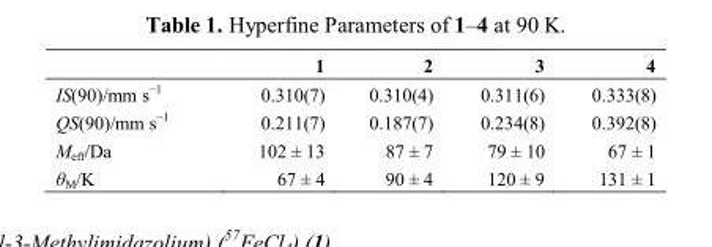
<table><thead><tr><td></td><td>1</td><td>2</td><td>3</td><td>4</td></tr></thead><tbody><tr><td>IS(90)/mm s<sup>−1</sup></td><td>0.310(7)</td><td>0.310(4)</td><td>0.311(6)</td><td>0.333(8)</td></tr><tr><td>QS(90)/mm s<sup>−1</sup></td><td>0.211(7)</td><td>0.187(7)</td><td>0.234(8)</td><td>0.392(8)</td></tr><tr><td>M<sub>eff</sub>/Da</td><td>102 ± 13</td><td>87 ± 7</td><td>79 ± 10</td><td>67 ± 1</td></tr><tr><td>θ<sub>M</sub>/K</td><td>67 ± 4</td><td>90 ± 4</td><td>120 ± 9</td><td>131 ± 1</td></tr></tbody></table>